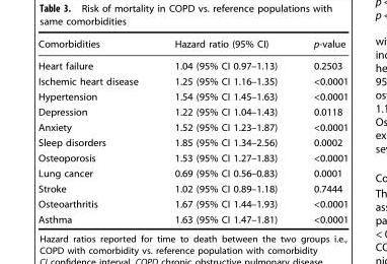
<table><thead><tr><td>Comorbidities</td><td>Hazard ratio (95% CI)</td><td>p-value</td></tr></thead><tbody><tr><td>Heart failure</td><td>1.04 (95% CI 0.97–1.13)</td><td>0.2503</td></tr><tr><td>Ischemic heart disease</td><td>1.25 (95% CI 1.16–1.35)</td><td>&lt;0.0001</td></tr><tr><td>Hypertension</td><td>1.54 (95% CI 1.45–1.63)</td><td>&lt;0.0001</td></tr><tr><td>Depression</td><td>1.22 (95% CI 1.04–1.43)</td><td>0.0118</td></tr><tr><td>Anxiety</td><td>1.52 (95% CI 1.23–1.87)</td><td>&lt;0.0001</td></tr><tr><td>Sleep disorders</td><td>1.85 (95% CI 1.34–2.56)</td><td>0.0002</td></tr><tr><td>Osteoporosis</td><td>1.53 (95% CI 1.27–1.83)</td><td>&lt;0.0001</td></tr><tr><td>Lung cancer</td><td>0.69 (95% CI 0.56–0.83)</td><td>0.0001</td></tr><tr><td>Stroke</td><td>1.02 (95% CI 0.89–1.18)</td><td>0.7444</td></tr><tr><td>Osteoarthritis</td><td>1.67 (95% CI 1.44–1.93)</td><td>&lt;0.0001</td></tr><tr><td>Asthma</td><td>1.63 (95% CI 1.47–1.81)</td><td>&lt;0.0001</td></tr></tbody></table>